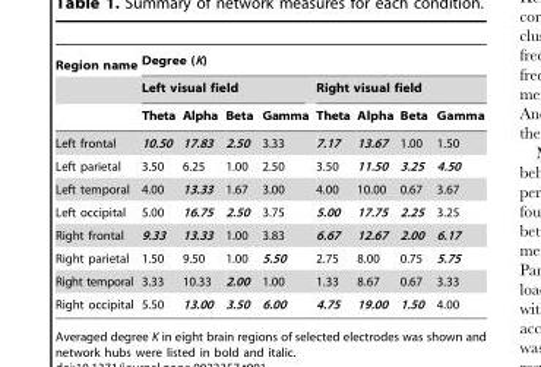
<table><thead><tr><td rowspan="3">Region name</td><td colspan="8">Degree (K)</td></tr><tr><td colspan="4">Left visual field</td><td colspan="4">Right visual field</td></tr><tr><td>Theta</td><td>Alpha</td><td>Beta</td><td>Gamma</td><td>Theta</td><td>Alpha</td><td>Beta</td><td>Gamma</td></tr></thead><tbody><tr><td>Left frontal</td><td>10.50</td><td>17.83</td><td>2.50</td><td>3.33</td><td>7.17</td><td>13.67</td><td>1.00</td><td>1.50</td></tr><tr><td>Left parietal</td><td>3.50</td><td>6.25</td><td>1.00</td><td>2.50</td><td>3.50</td><td>11.50</td><td>3.25</td><td>4.50</td></tr><tr><td>Left temporal</td><td>4.00</td><td>13.33</td><td>1.67</td><td>3.00</td><td>4.00</td><td>10.00</td><td>0.67</td><td>3.67</td></tr><tr><td>Left occipital</td><td>5.00</td><td>16.75</td><td>2.50</td><td>3.75</td><td>5.00</td><td>17.75</td><td>2.25</td><td>3.25</td></tr><tr><td>Right frontal</td><td>9.33</td><td>13.33</td><td>1.00</td><td>3.83</td><td>6.67</td><td>12.67</td><td>2.00</td><td>6.17</td></tr><tr><td>Right parietal</td><td>1.50</td><td>9.50</td><td>1.00</td><td>5.50</td><td>2.75</td><td>8.00</td><td>0.75</td><td>5.75</td></tr><tr><td>Right temporal</td><td>3.33</td><td>10.33</td><td>2.00</td><td>1.00</td><td>1.33</td><td>8.67</td><td>0.67</td><td>3.33</td></tr><tr><td>Right occipital</td><td>5.50</td><td>13.00</td><td>3.50</td><td>6.00</td><td>4.75</td><td>19.00</td><td>1.50</td><td>4.00</td></tr></tbody></table>